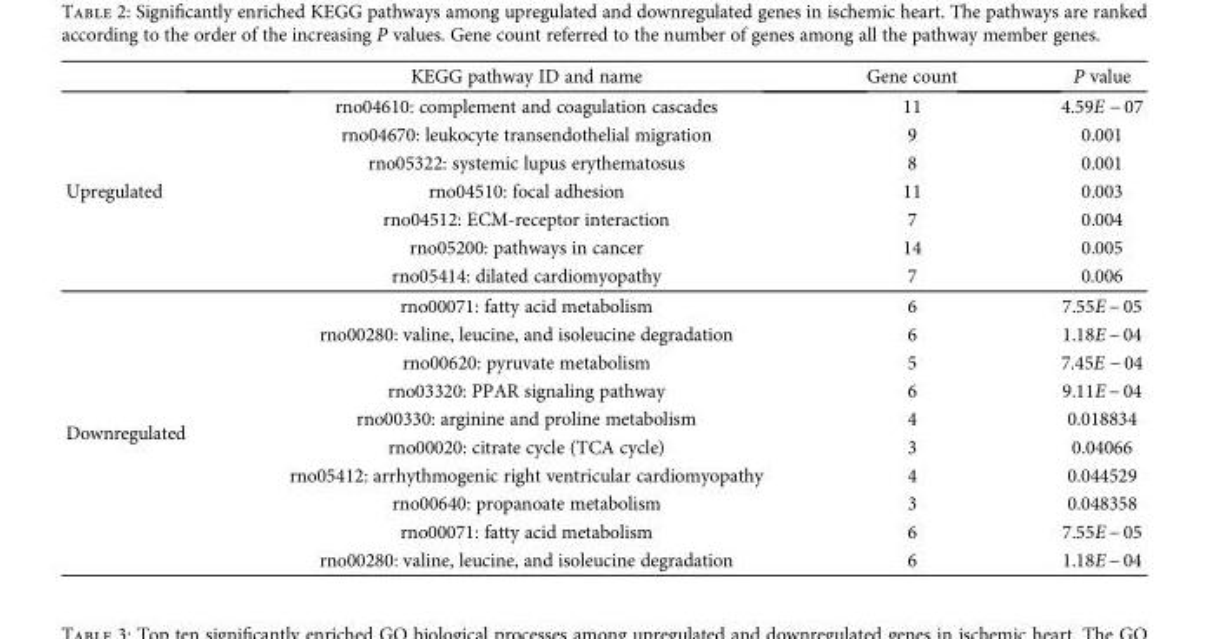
<table><thead><tr><td></td><td>KEGG pathway ID and name</td><td>Gene count</td><td>P value</td></tr></thead><tbody><tr><td rowspan="7">Upregulated</td><td>rno04610: complement and coagulation cascades</td><td>11</td><td>4.59E − 07</td></tr><tr><td>rno04670: leukocyte transendothelial migration</td><td>9</td><td>0.001</td></tr><tr><td>rno05322: systemic lupus erythematosus</td><td>8</td><td>0.001</td></tr><tr><td>rno04510: focal adhesion</td><td>11</td><td>0.003</td></tr><tr><td>rno04512: ECM-receptor interaction</td><td>7</td><td>0.004</td></tr><tr><td>rno05200: pathways in cancer</td><td>14</td><td>0.005</td></tr><tr><td>rno05414: dilated cardiomyopathy</td><td>7</td><td>0.006</td></tr><tr><td rowspan="10">Downregulated</td><td>rno00071: fatty acid metabolism</td><td>6</td><td>7.55E − 05</td></tr><tr><td>rno00280: valine, leucine, and isoleucine degradation</td><td>6</td><td>1.18E − 04</td></tr><tr><td>rno00620: pyruvate metabolism</td><td>5</td><td>7.45E − 04</td></tr><tr><td>rno03320: PPAR signaling pathway</td><td>6</td><td>9.11E − 04</td></tr><tr><td>rno00330: arginine and proline metabolism</td><td>4</td><td>0.018834</td></tr><tr><td>rno00020: citrate cycle (TCA cycle)</td><td>3</td><td>0.04066</td></tr><tr><td>rno05412: arrhythmogenic right ventricular cardiomyopathy</td><td>4</td><td>0.044529</td></tr><tr><td>rno00640: propanoate metabolism</td><td>3</td><td>0.048358</td></tr><tr><td>rno00071: fatty acid metabolism</td><td>6</td><td>7.55E − 05</td></tr><tr><td>rno00280: valine, leucine, and isoleucine degradation</td><td>6</td><td>1.18E − 04</td></tr></tbody></table>